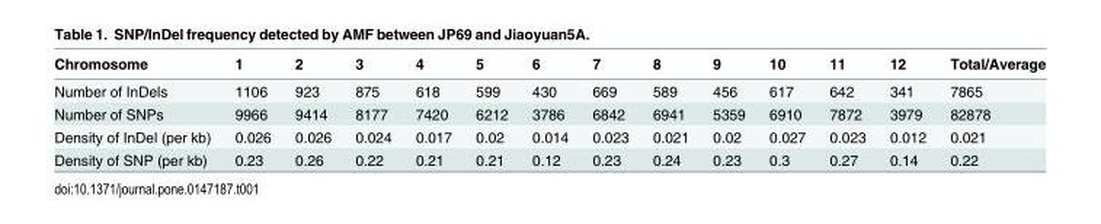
<table><thead><tr><td>Chromosome</td><td>1</td><td>2</td><td>3</td><td>4</td><td>5</td><td>6</td><td>7</td><td>8</td><td>9</td><td>10</td><td>11</td><td>12</td><td>Total/Average</td></tr></thead><tbody><tr><td>Number of InDels</td><td>1106</td><td>923</td><td>875</td><td>618</td><td>599</td><td>430</td><td>669</td><td>589</td><td>456</td><td>617</td><td>642</td><td>341</td><td>7865</td></tr><tr><td>Number of SNPs</td><td>9966</td><td>9414</td><td>8177</td><td>7420</td><td>6212</td><td>3786</td><td>6842</td><td>6941</td><td>5359</td><td>6910</td><td>7872</td><td>3979</td><td>82878</td></tr><tr><td>Density of InDel (per kb)</td><td>0.026</td><td>0.026</td><td>0.024</td><td>0.017</td><td>0.02</td><td>0.014</td><td>0.023</td><td>0.021</td><td>0.02</td><td>0.027</td><td>0.023</td><td>0.012</td><td>0.021</td></tr><tr><td>Density of SNP (per kb)</td><td>0.23</td><td>0.26</td><td>0.22</td><td>0.21</td><td>0.21</td><td>0.12</td><td>0.23</td><td>0.24</td><td>0.23</td><td>0.3</td><td>0.27</td><td>0.14</td><td>0.22</td></tr></tbody></table>